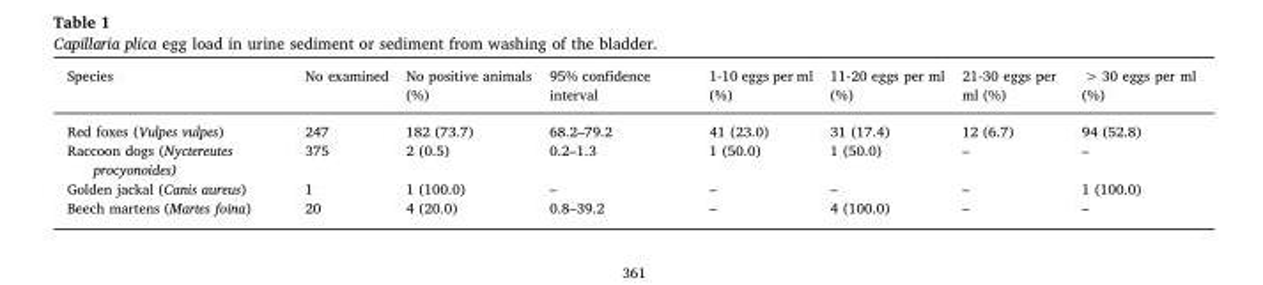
<table><thead><tr><td>Species</td><td>No examined</td><td>No positive animals (%)</td><td>95% confidence interval</td><td>1-10 eggs per ml (%)</td><td>11-20 eggs per ml (%)</td><td>21-30 eggs per ml (%)</td><td>&gt; 30 eggs per ml (%)</td></tr></thead><tbody><tr><td>Red foxes (Vulpes vulpes)</td><td>247</td><td>182 (73.7)</td><td>68.2–79.2</td><td>41 (23.0)</td><td>31 (17.4)</td><td>12 (6.7)</td><td>94 (52.8)</td></tr><tr><td>Raccoon dogs (Nyctereutes procyonoides)</td><td>375</td><td>2 (0.5)</td><td>0.2–1.3</td><td>1 (50.0)</td><td>1 (50.0)</td><td>–</td><td>–</td></tr><tr><td>Golden jackal (Canis aureus)</td><td>1</td><td>1 (100.0)</td><td>–</td><td>–</td><td>–</td><td>–</td><td>1 (100.0)</td></tr><tr><td>Beech martens (Martes foina)</td><td>20</td><td>4 (20.0)</td><td>0.8–39.2</td><td>–</td><td>4 (100.0)</td><td>–</td><td>–</td></tr></tbody></table>